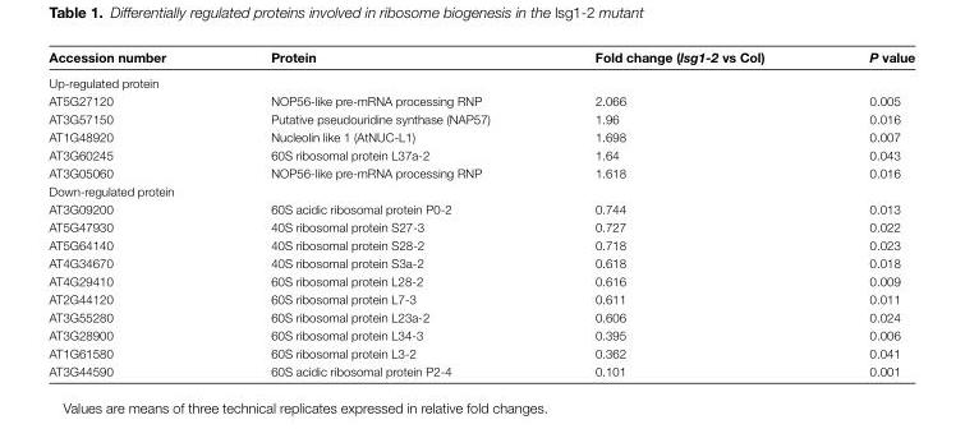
<table><thead><tr><td>Accession number</td><td>Protein</td><td>Fold change (lsg1-2 vs Col)</td><td>P value</td></tr></thead><tbody><tr><td colspan="4">Up-regulated protein</td></tr><tr><td>AT5G27120</td><td>NOP56-like pre-mRNA processing RNP</td><td>2.066</td><td>0.005</td></tr><tr><td>AT3G57150</td><td>Putative pseudouridine synthase (NAP57)</td><td>1.96</td><td>0.016</td></tr><tr><td>AT1G48920</td><td>Nucleolin like 1 (AtNUC-L1)</td><td>1.698</td><td>0.007</td></tr><tr><td>AT3G60245</td><td>60S ribosomal protein L37a-2</td><td>1.64</td><td>0.043</td></tr><tr><td>AT3G05060</td><td>NOP56-like pre-mRNA processing RNP</td><td>1.618</td><td>0.016</td></tr><tr><td colspan="4">Down-regulated protein</td></tr><tr><td>AT3G09200</td><td>60S acidic ribosomal protein P0-2</td><td>0.744</td><td>0.013</td></tr><tr><td>AT5G47930</td><td>40S ribosomal protein S27-3</td><td>0.727</td><td>0.022</td></tr><tr><td>AT5G64140</td><td>40S ribosomal protein S28-2</td><td>0.718</td><td>0.023</td></tr><tr><td>AT4G34670</td><td>40S ribosomal protein S3a-2</td><td>0.618</td><td>0.018</td></tr><tr><td>AT4G29410</td><td>60S ribosomal protein L28-2</td><td>0.616</td><td>0.009</td></tr><tr><td>AT2G44120</td><td>60S ribosomal protein L7-3</td><td>0.611</td><td>0.011</td></tr><tr><td>AT3G55280</td><td>60S ribosomal protein L23a-2</td><td>0.606</td><td>0.024</td></tr><tr><td>AT3G28900</td><td>60S ribosomal protein L34-3</td><td>0.395</td><td>0.006</td></tr><tr><td>AT1G61580</td><td>60S ribosomal protein L3-2</td><td>0.362</td><td>0.041</td></tr><tr><td>AT3G44590</td><td>60S acidic ribosomal protein P2-4</td><td>0.101</td><td>0.001</td></tr></tbody></table>